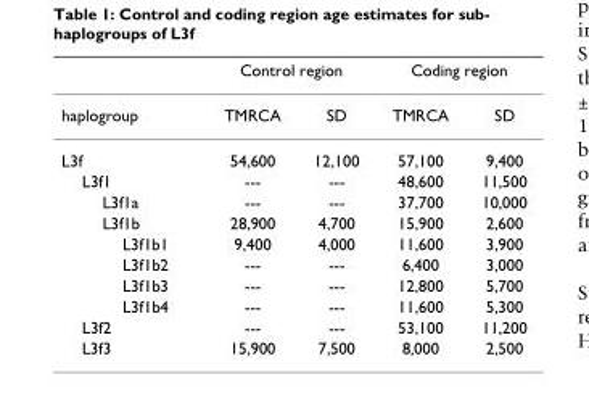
<table><thead><tr><td rowspan="2">haplogroup</td><td colspan="2">Control region</td><td colspan="2">Coding region</td></tr><tr><td>TMRCA</td><td>SD</td><td>TMRCA</td><td>SD</td></tr></thead><tbody><tr><td>L3f</td><td>54,600</td><td>12,100</td><td>57,100</td><td>9,400</td></tr><tr><td>L3f1</td><td>---</td><td>---</td><td>48,600</td><td>11,500</td></tr><tr><td>L3f1a</td><td>---</td><td>---</td><td>37,700</td><td>10,000</td></tr><tr><td>L3f1b</td><td>28,900</td><td>4,700</td><td>15,900</td><td>2,600</td></tr><tr><td>L3f1b1</td><td>9,400</td><td>4,000</td><td>11,600</td><td>3,900</td></tr><tr><td>L3f1b2</td><td>---</td><td>---</td><td>6,400</td><td>3,000</td></tr><tr><td>L3f1b3</td><td>---</td><td>---</td><td>12,800</td><td>5,700</td></tr><tr><td>L3f1b4</td><td>---</td><td>---</td><td>11,600</td><td>5,300</td></tr><tr><td>L3f2</td><td>---</td><td>---</td><td>53,100</td><td>11,200</td></tr><tr><td>L3f3</td><td>15,900</td><td>7,500</td><td>8,000</td><td>2,500</td></tr></tbody></table>